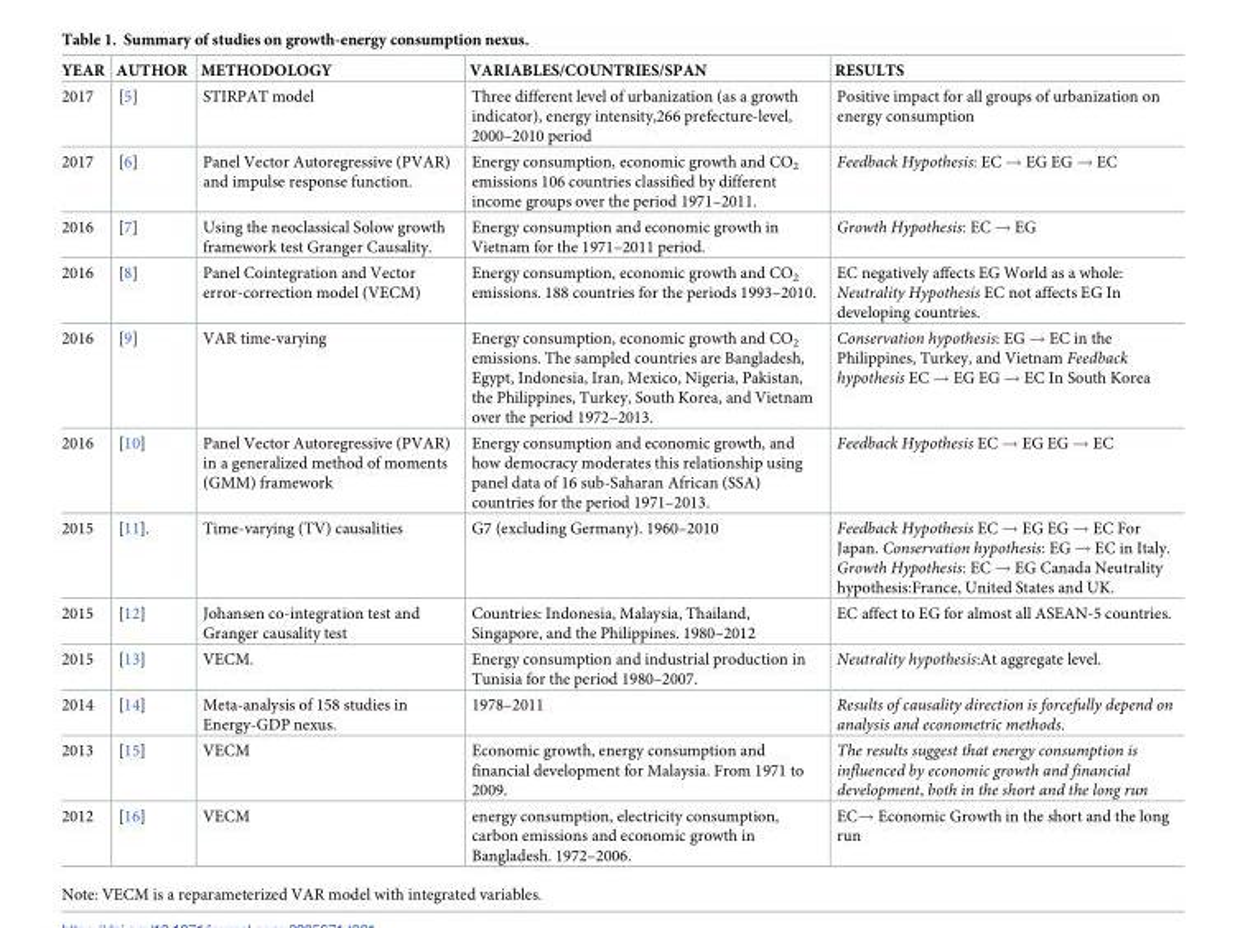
<table><thead><tr><td>YEAR</td><td>AUTHOR</td><td>METHODOLOGY</td><td>VARIABLES/COUNTRIES/SPAN</td><td>RESULTS</td></tr></thead><tbody><tr><td>2017</td><td>[5]</td><td>STIRPAT model</td><td>Three different level of urbanization (as a growth indicator), energy intensity,266 prefecture-level, 2000–2010 period</td><td>Positive impact for all groups of urbanization on energy consumption</td></tr><tr><td>2017</td><td>[6]</td><td>Panel Vector Autoregressive (PVAR) and impulse response function.</td><td>Energy consumption, economic growth and CO<sub>2</sub> emissions 106 countries classified by different income groups over the period 1971–2011.</td><td>Feedback Hypothesis: EC → EG EG → EC</td></tr><tr><td>2016</td><td>[7]</td><td>Using the neoclassical Solow growth framework test Granger Causality.</td><td>Energy consumption and economic growth in Vietnam for the 1971–2011 period.</td><td>Growth Hypothesis: EC → EG</td></tr><tr><td>2016</td><td>[8]</td><td>Panel Cointegration and Vector error-correction model (VECM)</td><td>Energy consumption, economic growth and CO<sub>2</sub> emissions. 188 countries for the periods 1993–2010.</td><td>EC negatively affects EG World as a whole: Neutrality Hypothesis EC not affects EG In developing countries.</td></tr><tr><td>2016</td><td>[9]</td><td>VAR time-varying</td><td>Energy consumption, economic growth and CO<sub>2</sub> emissions. The sampled countries are Bangladesh, Egypt, Indonesia, Iran, Mexico, Nigeria, Pakistan, the Philippines, Turkey, South Korea, and Vietnam over the period 1972–2013.</td><td>Conservation hypothesis: EG → EC in the Philippines, Turkey, and Vietnam Feedback hypothesis EC → EG EG → EC In South Korea</td></tr><tr><td>2016</td><td>[10]</td><td>Panel Vector Autoregressive (PVAR) in a generalized method of moments (GMM) framework</td><td>Energy consumption and economic growth, and how democracy moderates this relationship using panel data of 16 sub-Saharan African (SSA) countries for the period 1971–2013.</td><td>Feedback Hypothesis EC → EG EG → EC</td></tr><tr><td>2015</td><td>[11].</td><td>Time-varying (TV) causalities</td><td>G7 (excluding Germany). 1960–2010</td><td>Feedback Hypothesis EC → EG EG → EC For Japan. Conservation hypothesis: EG → EC in Italy. Growth Hypothesis: EC → EG Canada Neutrality hypothesis:France, United States and UK.</td></tr><tr><td>2015</td><td>[12]</td><td>Johansen co-integration test and Granger causality test</td><td>Countries: Indonesia, Malaysia, Thailand, Singapore, and the Philippines. 1980–2012</td><td>EC affect to EG for almost all ASEAN-5 countries.</td></tr><tr><td>2015</td><td>[13]</td><td>VECM.</td><td>Energy consumption and industrial production in Tunisia for the period 1980–2007.</td><td>Neutrality hypothesis:At aggregate level.</td></tr><tr><td>2014</td><td>[14]</td><td>Meta-analysis of 158 studies in Energy-GDP nexus.</td><td>1978–2011</td><td>Results of causality direction is forcefully depend on analysis and econometric methods.</td></tr><tr><td>2013</td><td>[15]</td><td>VECM</td><td>Economic growth, energy consumption and financial development for Malaysia. From 1971 to 2009.</td><td>The results suggest that energy consumption is influenced by economic growth and financial development, both in the short and the long run</td></tr><tr><td>2012</td><td>[16]</td><td>VECM</td><td>energy consumption, electricity consumption, carbon emissions and economic growth in Bangladesh. 1972–2006.</td><td>EC→ Economic Growth in the short and the long run</td></tr></tbody></table>